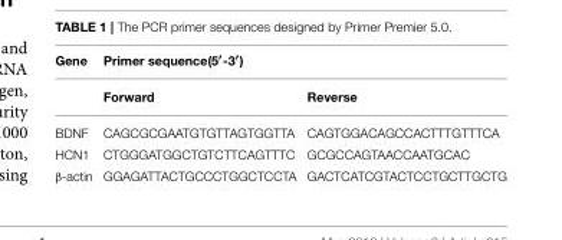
<table><thead><tr><td rowspan="2">Gene</td><td colspan="2">Primer sequence(5′-3′)</td></tr><tr><td>Forward</td><td>Reverse</td></tr></thead><tbody><tr><td>BDNF</td><td>CAGCGCGAATGTGTTAGTGGTTA</td><td>CAGTGGACAGCCACTTTGTTTCA</td></tr><tr><td>HCN1</td><td>CTGGGATGGCTGTCTTCAGTTTC</td><td>GCGCCAGTAACCAATGCAC</td></tr><tr><td>β-actin</td><td>GGAGATTACTGCCCTGGCTCCTA</td><td>GACTCATCGTACTCCTGCTTGCTG</td></tr></tbody></table>